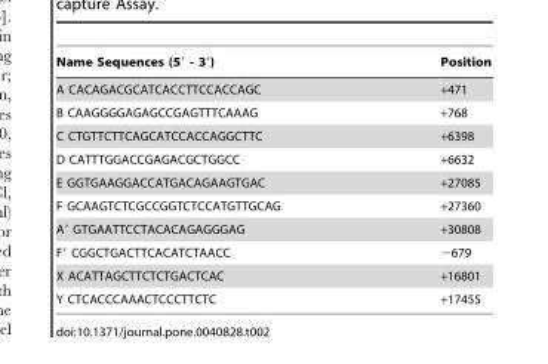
<table><thead><tr><td>Name Sequences (5′ - 3′)</td><td>Position</td></tr></thead><tbody><tr><td>A CACAGACGCATCACCTTCCACCAGC</td><td>+471</td></tr><tr><td>B CAAGGGGAGAGCCGAGTTTCAAAG</td><td>+768</td></tr><tr><td>C CTGTTCTTCAGCATCCACCAGGCTTC</td><td>+6398</td></tr><tr><td>D CATTTGGACCGAGACGCTGGCC</td><td>+6632</td></tr><tr><td>E GGTGAAGGACCATGACAGAAGTGAC</td><td>+27085</td></tr><tr><td>F GCAAGTCTCGCCGGTCTCCATGTTGCAG</td><td>+27360</td></tr><tr><td>A′ GTGAATTCCTACACAGAGGGAG</td><td>+30808</td></tr><tr><td>F′ CGGCTGACTTCACATCTAACC</td><td>−679</td></tr><tr><td>X ACATTAGCTTCTCTGACTCAC</td><td>+16801</td></tr><tr><td>Y CTCACCCAAACTCCCTTCTC</td><td>+17455</td></tr></tbody></table>